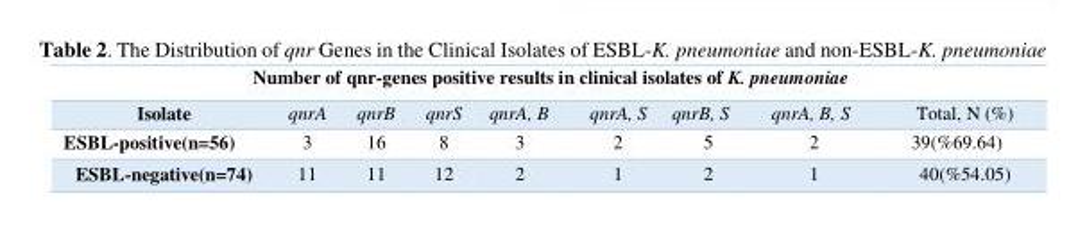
<table><thead><tr><td colspan="9">Number of qnr-genes positive results in clinical isolates of K. pneumoniae</td></tr><tr><td>Isolate</td><td>qnrA</td><td>qnrB</td><td>qnrS</td><td>qnrA, B</td><td>qnrA, S</td><td>qnrB, S</td><td>qnrA, B, S</td><td>Total, N (%)</td></tr></thead><tbody><tr><td>ESBL-positive(n=56)</td><td>3</td><td>16</td><td>8</td><td>3</td><td>2</td><td>5</td><td>2</td><td>39(%69.64)</td></tr><tr><td>ESBL-negative(n=74)</td><td>11</td><td>11</td><td>12</td><td>2</td><td>1</td><td>2</td><td>1</td><td>40(%54.05)</td></tr></tbody></table>